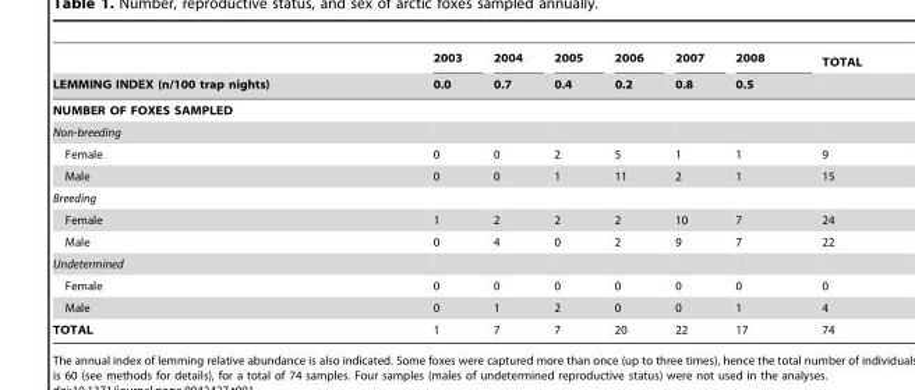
<table><thead><tr><td rowspan="2">LEMMING INDEX (n/100 trap nights)</td><td rowspan="2">2003 0.0</td><td rowspan="2">2004 0.7</td><td rowspan="2">2005 0.4</td><td rowspan="2">2006 0.2</td><td rowspan="2">2007 0.8</td><td rowspan="2">2008 0.5</td><td rowspan="2">TOTAL</td></tr><tr></tr></thead><tbody><tr><td colspan="8">NUMBER OF FOXES SAMPLED</td></tr><tr><td colspan="8">Non-breeding</td></tr><tr><td>Female</td><td>0</td><td>0</td><td>2</td><td>5</td><td>1</td><td>1</td><td>9</td></tr><tr><td>Male</td><td>0</td><td>0</td><td>1</td><td>11</td><td>2</td><td>1</td><td>15</td></tr><tr><td colspan="8">Breeding</td></tr><tr><td>Female</td><td>1</td><td>2</td><td>2</td><td>2</td><td>10</td><td>7</td><td>24</td></tr><tr><td>Male</td><td>0</td><td>4</td><td>0</td><td>2</td><td>9</td><td>7</td><td>22</td></tr><tr><td colspan="8">Undetermined</td></tr><tr><td>Female</td><td>0</td><td>0</td><td>0</td><td>0</td><td>0</td><td>0</td><td>0</td></tr><tr><td>Male</td><td>0</td><td>1</td><td>2</td><td>0</td><td>0</td><td>1</td><td>4</td></tr><tr><td>TOTAL</td><td>1</td><td>7</td><td>7</td><td>20</td><td>22</td><td>17</td><td>74</td></tr></tbody></table>